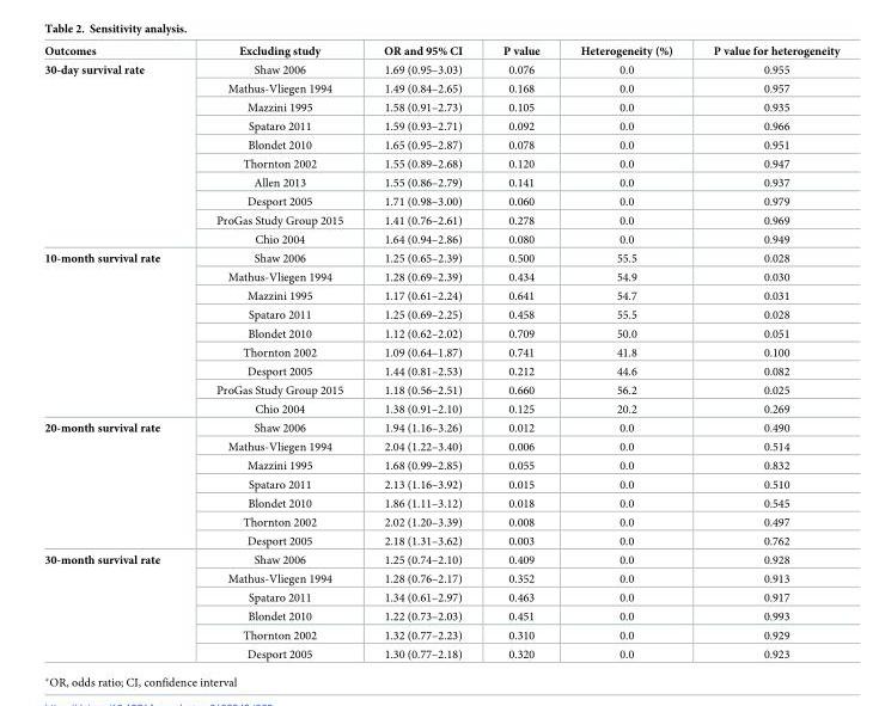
<table><thead><tr><td>Outcomes</td><td>Excluding study</td><td>OR and 95% CI</td><td>P value</td><td>Heterogeneity (%)</td><td>P value for heterogeneity</td></tr></thead><tbody><tr><td rowspan="10">30-day survival rate</td><td>Shaw 2006</td><td>1.69 (0.95–3.03)</td><td>0.076</td><td>0.0</td><td>0.955</td></tr><tr><td>Mathus-Vliegen 1994</td><td>1.49 (0.84–2.65)</td><td>0.168</td><td>0.0</td><td>0.957</td></tr><tr><td>Mazzini 1995</td><td>1.58 (0.91–2.73)</td><td>0.105</td><td>0.0</td><td>0.935</td></tr><tr><td>Spataro 2011</td><td>1.59 (0.93–2.71)</td><td>0.092</td><td>0.0</td><td>0.966</td></tr><tr><td>Blondet 2010</td><td>1.65 (0.95–2.87)</td><td>0.078</td><td>0.0</td><td>0.951</td></tr><tr><td>Thornton 2002</td><td>1.55 (0.89–2.68)</td><td>0.120</td><td>0.0</td><td>0.947</td></tr><tr><td>Allen 2013</td><td>1.55 (0.86–2.79)</td><td>0.141</td><td>0.0</td><td>0.937</td></tr><tr><td>Desport 2005</td><td>1.71 (0.98–3.00)</td><td>0.060</td><td>0.0</td><td>0.979</td></tr><tr><td>ProGas Study Group 2015</td><td>1.41 (0.76–2.61)</td><td>0.278</td><td>0.0</td><td>0.969</td></tr><tr><td>Chio 2004</td><td>1.64 (0.94–2.86)</td><td>0.080</td><td>0.0</td><td>0.949</td></tr><tr><td rowspan="9">10-month survival rate</td><td>Shaw 2006</td><td>1.25 (0.65–2.39)</td><td>0.500</td><td>55.5</td><td>0.028</td></tr><tr><td>Mathus-Vliegen 1994</td><td>1.28 (0.69–2.39)</td><td>0.434</td><td>54.9</td><td>0.030</td></tr><tr><td>Mazzini 1995</td><td>1.17 (0.61–2.24)</td><td>0.641</td><td>54.7</td><td>0.031</td></tr><tr><td>Spataro 2011</td><td>1.25 (0.69–2.25)</td><td>0.458</td><td>55.5</td><td>0.028</td></tr><tr><td>Blondet 2010</td><td>1.12 (0.62–2.02)</td><td>0.709</td><td>50.0</td><td>0.051</td></tr><tr><td>Thornton 2002</td><td>1.09 (0.64–1.87)</td><td>0.741</td><td>41.8</td><td>0.100</td></tr><tr><td>Desport 2005</td><td>1.44 (0.81–2.53)</td><td>0.212</td><td>44.6</td><td>0.082</td></tr><tr><td>ProGas Study Group 2015</td><td>1.18 (0.56–2.51)</td><td>0.660</td><td>56.2</td><td>0.025</td></tr><tr><td>Chio 2004</td><td>1.38 (0.91–2.10)</td><td>0.125</td><td>20.2</td><td>0.269</td></tr><tr><td rowspan="7">20-month survival rate</td><td>Shaw 2006</td><td>1.94 (1.16–3.26)</td><td>0.012</td><td>0.0</td><td>0.490</td></tr><tr><td>Mathus-Vliegen 1994</td><td>2.04 (1.22–3.40)</td><td>0.006</td><td>0.0</td><td>0.514</td></tr><tr><td>Mazzini 1995</td><td>1.68 (0.99–2.85)</td><td>0.055</td><td>0.0</td><td>0.832</td></tr><tr><td>Spataro 2011</td><td>2.13 (1.16–3.92)</td><td>0.015</td><td>0.0</td><td>0.510</td></tr><tr><td>Blondet 2010</td><td>1.86 (1.11–3.12)</td><td>0.018</td><td>0.0</td><td>0.545</td></tr><tr><td>Thornton 2002</td><td>2.02 (1.20–3.39)</td><td>0.008</td><td>0.0</td><td>0.497</td></tr><tr><td>Desport 2005</td><td>2.18 (1.31–3.62)</td><td>0.003</td><td>0.0</td><td>0.762</td></tr><tr><td rowspan="6">30-month survival rate</td><td>Shaw 2006</td><td>1.25 (0.74–2.10)</td><td>0.409</td><td>0.0</td><td>0.928</td></tr><tr><td>Mathus-Vliegen 1994</td><td>1.28 (0.76–2.17)</td><td>0.352</td><td>0.0</td><td>0.913</td></tr><tr><td>Spataro 2011</td><td>1.34 (0.61–2.97)</td><td>0.463</td><td>0.0</td><td>0.917</td></tr><tr><td>Blondet 2010</td><td>1.22 (0.73–2.03)</td><td>0.451</td><td>0.0</td><td>0.993</td></tr><tr><td>Thornton 2002</td><td>1.32 (0.77–2.23)</td><td>0.310</td><td>0.0</td><td>0.929</td></tr><tr><td>Desport 2005</td><td>1.30 (0.77–2.18)</td><td>0.320</td><td>0.0</td><td>0.923</td></tr></tbody></table>